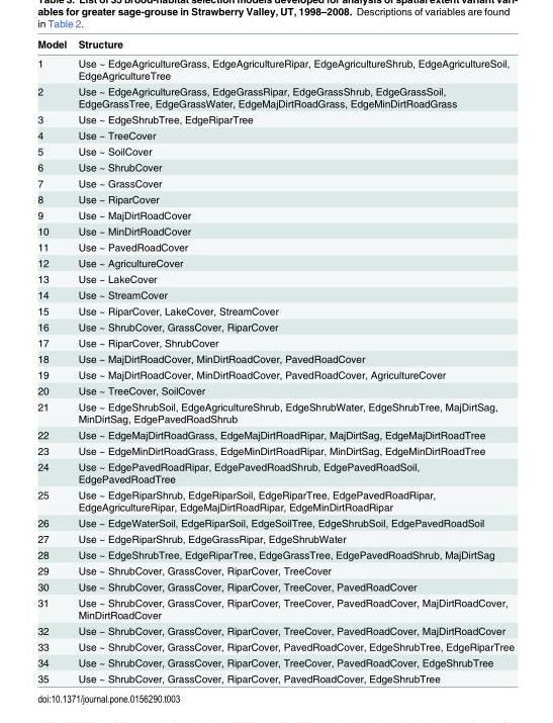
<table><thead><tr><td>Model</td><td>Structure</td></tr></thead><tbody><tr><td>1</td><td>Use ~ EdgeAgricultureGrass, EdgeAgricultureRipar, EdgeAgricultureShrub, EdgeAgricultureSoil, EdgeAgricultureTree</td></tr><tr><td>2</td><td>Use ~ EdgeAgricultureGrass, EdgeGrassRipar, EdgeGrassShrub, EdgeGrassSoil, EdgeGrassTree, EdgeGrassWater, EdgeMajDirtRoadGrass, EdgeMinDirtRoadGrass</td></tr><tr><td>3</td><td>Use ~ EdgeShrubTree, EdgeRiparTree</td></tr><tr><td>4</td><td>Use ~ TreeCover</td></tr><tr><td>5</td><td>Use ~ SoilCover</td></tr><tr><td>6</td><td>Use ~ ShrubCover</td></tr><tr><td>7</td><td>Use ~ GrassCover</td></tr><tr><td>8</td><td>Use ~ RiparCover</td></tr><tr><td>9</td><td>Use ~ MajDirtRoadCover</td></tr><tr><td>10</td><td>Use ~ MinDirtRoadCover</td></tr><tr><td>11</td><td>Use ~ PavedRoadCover</td></tr><tr><td>12</td><td>Use ~ AgricultureCover</td></tr><tr><td>13</td><td>Use ~ LakeCover</td></tr><tr><td>14</td><td>Use ~ StreamCover</td></tr><tr><td>15</td><td>Use ~ RiparCover, LakeCover, StreamCover</td></tr><tr><td>16</td><td>Use ~ ShrubCover, GrassCover, RiparCover</td></tr><tr><td>17</td><td>Use ~ RiparCover, ShrubCover</td></tr><tr><td>18</td><td>Use ~ MajDirtRoadCover, MinDirtRoadCover, PavedRoadCover</td></tr><tr><td>19</td><td>Use ~ MajDirtRoadCover, MinDirtRoadCover, PavedRoadCover, AgricultureCover</td></tr><tr><td>20</td><td>Use ~ TreeCover, SoilCover</td></tr><tr><td>21</td><td>Use ~ EdgeShrubSoil, EdgeAgricultureShrub, EdgeShrubWater, EdgeShrubTree, MajDirtSag, MinDirtSag, EdgePavedRoadShrub</td></tr><tr><td>22</td><td>Use ~ EdgeMajDirtRoadGrass, EdgeMajDirtRoadRipar, MajDirtSag, EdgeMajDirtRoadTree</td></tr><tr><td>23</td><td>Use ~ EdgeMinDirtRoadGrass, EdgeMinDirtRoadRipar, MinDirtSag, EdgeMinDirtRoadTree</td></tr><tr><td>24</td><td>Use ~ EdgePavedRoadRipar, EdgePavedRoadShrub, EdgePavedRoadSoil, EdgePavedRoadTree</td></tr><tr><td>25</td><td>Use ~ EdgeRiparShrub, EdgeRiparSoil, EdgeRiparTree, EdgePavedRoadRipar, EdgeAgricultureRipar, EdgeMajDirtRoadRipar, EdgeMinDirtRoadRipar</td></tr><tr><td>26</td><td>Use ~ EdgeWaterSoil, EdgeRiparSoil, EdgeSoilTree, EdgeShrubSoil, EdgePavedRoadSoil</td></tr><tr><td>27</td><td>Use ~ EdgeRiparShrub, EdgeGrassRipar, EdgeShrubWater</td></tr><tr><td>28</td><td>Use ~ EdgeShrubTree, EdgeRiparTree, EdgeGrassTree, EdgePavedRoadShrub, MajDirtSag</td></tr><tr><td>29</td><td>Use ~ ShrubCover, GrassCover, RiparCover, TreeCover</td></tr><tr><td>30</td><td>Use ~ ShrubCover, GrassCover, RiparCover, TreeCover, PavedRoadCover</td></tr><tr><td>31</td><td>Use ~ ShrubCover, GrassCover, RiparCover, TreeCover, PavedRoadCover, MajDirtRoadCover, MinDirtRoadCover</td></tr><tr><td>32</td><td>Use ~ ShrubCover, GrassCover, RiparCover, TreeCover, PavedRoadCover, MajDirtRoadCover</td></tr><tr><td>33</td><td>Use ~ ShrubCover, GrassCover, RiparCover, PavedRoadCover, EdgeShrubTree, EdgeRiparTree</td></tr><tr><td>34</td><td>Use ~ ShrubCover, GrassCover, RiparCover, TreeCover, PavedRoadCover, EdgeShrubTree</td></tr><tr><td>35</td><td>Use ~ ShrubCover, GrassCover, RiparCover, PavedRoadCover, EdgeShrubTree</td></tr></tbody></table>